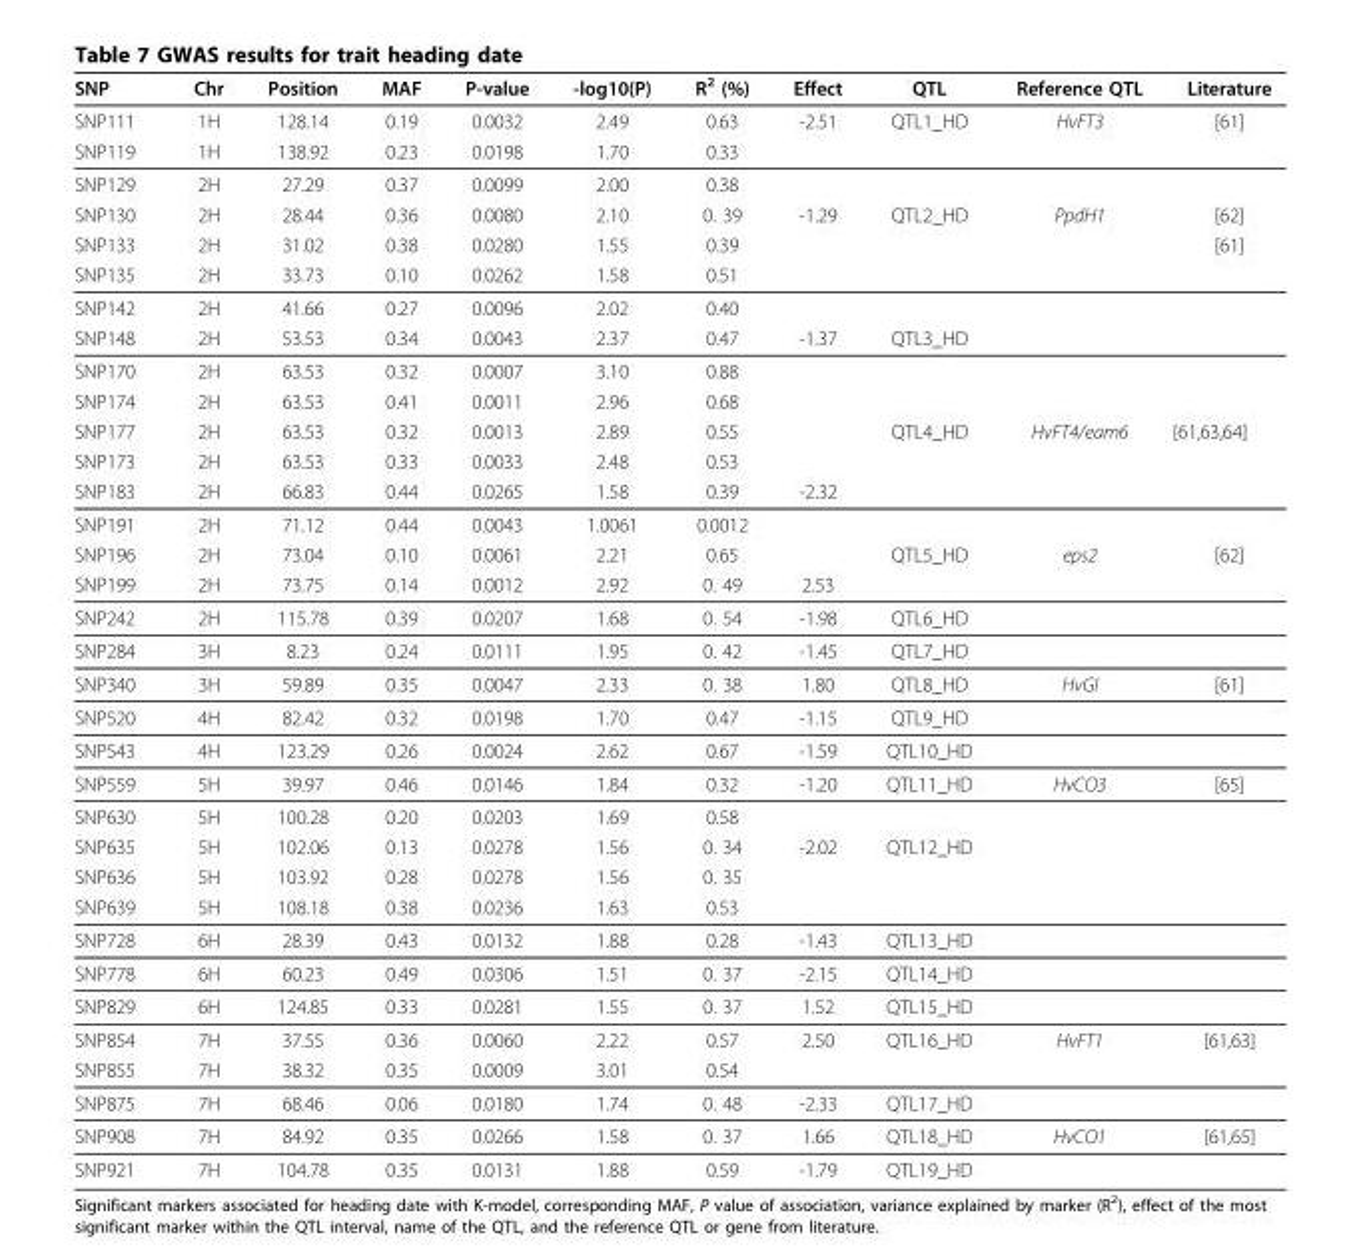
<table><thead><tr><td>SNP</td><td>Chr</td><td>Position</td><td>MAF</td><td>P-value</td><td>-log10(P)</td><td>R<sup>2</sup> (%)</td><td>Effect</td><td>QTL</td><td>Reference QTL</td><td>Literature</td></tr></thead><tbody><tr><td>SNP111</td><td>1H</td><td>128.14</td><td>0.19</td><td>0.0032</td><td>2.49</td><td>0.63</td><td>-2.51</td><td>QTL1_HD</td><td>HvFT3</td><td>[61]</td></tr><tr><td>SNP119</td><td>1H</td><td>138.92</td><td>0.23</td><td>0.0198</td><td>1.70</td><td>0.33</td><td></td><td></td><td></td><td></td></tr><tr><td>SNP129</td><td>2H</td><td>27.29</td><td>0.37</td><td>0.0099</td><td>2.00</td><td>0.38</td><td></td><td></td><td></td><td></td></tr><tr><td>SNP130</td><td>2H</td><td>28.44</td><td>0.36</td><td>0.0080</td><td>2.10</td><td>0. 39</td><td>-1.29</td><td>QTL2_HD</td><td>PpdH1</td><td>[62]</td></tr><tr><td>SNP133</td><td>2H</td><td>31.02</td><td>0.38</td><td>0.0280</td><td>1.55</td><td>0.39</td><td></td><td></td><td></td><td>[61]</td></tr><tr><td>SNP135</td><td>2H</td><td>33.73</td><td>0.10</td><td>0.0262</td><td>1.58</td><td>0.51</td><td></td><td></td><td></td><td></td></tr><tr><td>SNP142</td><td>2H</td><td>41.66</td><td>0.27</td><td>0.0096</td><td>2.02</td><td>0.40</td><td></td><td></td><td></td><td></td></tr><tr><td>SNP148</td><td>2H</td><td>53.53</td><td>0.34</td><td>0.0043</td><td>2.37</td><td>0.47</td><td>-1.37</td><td>QTL3_HD</td><td></td><td></td></tr><tr><td>SNP170</td><td>2H</td><td>63.53</td><td>0.32</td><td>0.0007</td><td>3.10</td><td>0.88</td><td></td><td></td><td></td><td></td></tr><tr><td>SNP174</td><td>2H</td><td>63.53</td><td>0.41</td><td>0.0011</td><td>2.96</td><td>0.68</td><td></td><td></td><td></td><td></td></tr><tr><td>SNP177</td><td>2H</td><td>63.53</td><td>0.32</td><td>0.0013</td><td>2.89</td><td>0.55</td><td></td><td>QTL4_HD</td><td>HvFT4/eam6</td><td>[61,63,64]</td></tr><tr><td>SNP173</td><td>2H</td><td>63.53</td><td>0.33</td><td>0.0033</td><td>2.48</td><td>0.53</td><td></td><td></td><td></td><td></td></tr><tr><td>SNP183</td><td>2H</td><td>66.83</td><td>0.44</td><td>0.0265</td><td>1.58</td><td>0.39</td><td>-2.32</td><td></td><td></td><td></td></tr><tr><td>SNP191</td><td>2H</td><td>71.12</td><td>0.44</td><td>0.0043</td><td>1.0061</td><td>0.0012</td><td></td><td></td><td></td><td></td></tr><tr><td>SNP196</td><td>2H</td><td>73.04</td><td>0.10</td><td>0.0061</td><td>2.21</td><td>0.65</td><td></td><td>QTL5_HD</td><td>eps2</td><td>[62]</td></tr><tr><td>SNP199</td><td>2H</td><td>73.75</td><td>0.14</td><td>0.0012</td><td>2.92</td><td>0. 49</td><td>2.53</td><td></td><td></td><td></td></tr><tr><td>SNP242</td><td>2H</td><td>115.78</td><td>0.39</td><td>0.0207</td><td>1.68</td><td>0. 54</td><td>-1.98</td><td>QTL6_HD</td><td></td><td></td></tr><tr><td>SNP284</td><td>3H</td><td>8.23</td><td>0.24</td><td>0.0111</td><td>1.95</td><td>0. 42</td><td>-1.45</td><td>QTL7_HD</td><td></td><td></td></tr><tr><td>SNP340</td><td>3H</td><td>59.89</td><td>0.35</td><td>0.0047</td><td>2.33</td><td>0. 38</td><td>1.80</td><td>QTL8_HD</td><td>HvGI</td><td>[61]</td></tr><tr><td>SNP520</td><td>4H</td><td>82.42</td><td>0.32</td><td>0.0198</td><td>1.70</td><td>0.47</td><td>-1.15</td><td>QTL9_HD</td><td></td><td></td></tr><tr><td>SNP543</td><td>4H</td><td>123.29</td><td>0.26</td><td>0.0024</td><td>2.62</td><td>0.67</td><td>-1.59</td><td>QTL10_HD</td><td></td><td></td></tr><tr><td>SNP559</td><td>5H</td><td>39.97</td><td>0.46</td><td>0.0146</td><td>1.84</td><td>0.32</td><td>-1.20</td><td>QTL11_HD</td><td>HvCO3</td><td>[65]</td></tr><tr><td>SNP630</td><td>5H</td><td>100.28</td><td>0.20</td><td>0.0203</td><td>1.69</td><td>0.58</td><td></td><td></td><td></td><td></td></tr><tr><td>SNP635</td><td>5H</td><td>102.06</td><td>0.13</td><td>0.0278</td><td>1.56</td><td>0. 34</td><td>-2.02</td><td>QTL12_HD</td><td></td><td></td></tr><tr><td>SNP636</td><td>5H</td><td>103.92</td><td>0.28</td><td>0.0278</td><td>1.56</td><td>0. 35</td><td></td><td></td><td></td><td></td></tr><tr><td>SNP639</td><td>5H</td><td>108.18</td><td>0.38</td><td>0.0236</td><td>1.63</td><td>0.53</td><td></td><td></td><td></td><td></td></tr><tr><td>SNP728</td><td>6H</td><td>28.39</td><td>0.43</td><td>0.0132</td><td>1.88</td><td>0.28</td><td>-1.43</td><td>QTL13_HD</td><td></td><td></td></tr><tr><td>SNP778</td><td>6H</td><td>60.23</td><td>0.49</td><td>0.0306</td><td>1.51</td><td>0. 37</td><td>-2.15</td><td>QTL14_HD</td><td></td><td></td></tr><tr><td>SNP829</td><td>6H</td><td>124.85</td><td>0.33</td><td>0.0281</td><td>1.55</td><td>0. 37</td><td>1.52</td><td>QTL15_HD</td><td></td><td></td></tr><tr><td>SNP854</td><td>7H</td><td>37.55</td><td>0.36</td><td>0.0060</td><td>2.22</td><td>0.57</td><td>2.50</td><td>QTL16_HD</td><td>HvFT1</td><td>[61,63]</td></tr><tr><td>SNP855</td><td>7H</td><td>38.32</td><td>0.35</td><td>0.0009</td><td>3.01</td><td>0.54</td><td></td><td></td><td></td><td></td></tr><tr><td>SNP875</td><td>7H</td><td>68.46</td><td>0.06</td><td>0.0180</td><td>1.74</td><td>0. 48</td><td>-2.33</td><td>QTL17_HD</td><td></td><td></td></tr><tr><td>SNP908</td><td>7H</td><td>84.92</td><td>0.35</td><td>0.0266</td><td>1.58</td><td>0. 37</td><td>1.66</td><td>QTL18_HD</td><td>HvCO1</td><td>[61,65]</td></tr><tr><td>SNP921</td><td>7H</td><td>104.78</td><td>0.35</td><td>0.0131</td><td>1.88</td><td>0.59</td><td>-1.79</td><td>QTL19_HD</td><td></td><td></td></tr></tbody></table>